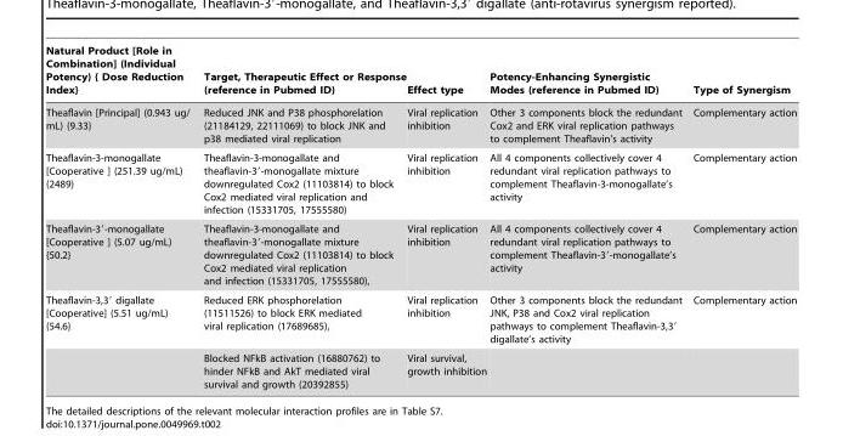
<table><thead><tr><td>Natural Product [Role in Combination] (Individual Potency) { Dose Reduction Index}</td><td>Target, Therapeutic Effect or Response (reference in Pubmed ID)</td><td>Effect type</td><td>Potency-Enhancing Synergistic Modes (reference in Pubmed ID)</td><td>Type of Synergism</td></tr></thead><tbody><tr><td>Theaflavin [Principal] (0.943 ug/ mL) {9.33}</td><td>Reduced JNK and P38 phosphorelation (21184129, 22111069) to block JNK and p38 mediated viral replication</td><td>Viral replication inhibition</td><td>Other 3 components block the redundant Cox2 and ERK viral replication pathways to complement Theaflavin’s activity</td><td>Complementary action</td></tr><tr><td>Theaflavin-3-monogallate [Cooperative ] (251.39 ug/mL) {2489}</td><td>Theaflavin-3-monogallate and theaflavin-3′-monogallate mixture downregulated Cox2 (11103814) to block Cox2 mediated viral replication and infection (15331705, 17555580)</td><td>Viral replication inhibition</td><td>All 4 components collectively cover 4 redundant viral replication pathways to complement Theaflavin-3-monogallate’s activity</td><td>Complementary action</td></tr><tr><td>Theaflavin-3′-monogallate [Cooperative ] (5.07 ug/mL) {50.2}</td><td>Theaflavin-3-monogallate and theaflavin-3′-monogallate mixture downregulated Cox2 (11103814) to block Cox2 mediated viral replication and infection (15331705, 17555580),</td><td>Viral replication inhibition</td><td>All 4 components collectively cover 4 redundant viral replication pathways to complement Theaflavin-3′-monogallate’s activity</td><td>Complementary action</td></tr><tr><td rowspan="2">Theaflavin-3,3′ digallate [Cooperative] (5.51 ug/mL) {54.6}</td><td>Reduced ERK phosphorelation (11511526) to block ERK mediated viral replication (17689685),</td><td>Viral replication inhibition</td><td>Other 3 components block the redundant JNK, P38 and Cox2 viral replication pathways to complement Theaflavin-3,3′ digallate’s activity</td><td>Complementary action</td></tr><tr><td>Blocked NFkB activation (16880762) to hinder NFkB and AkT mediated viral survival and growth (20392855)</td><td>Viral survival, growth inhibition</td><td></td><td></td></tr></tbody></table>